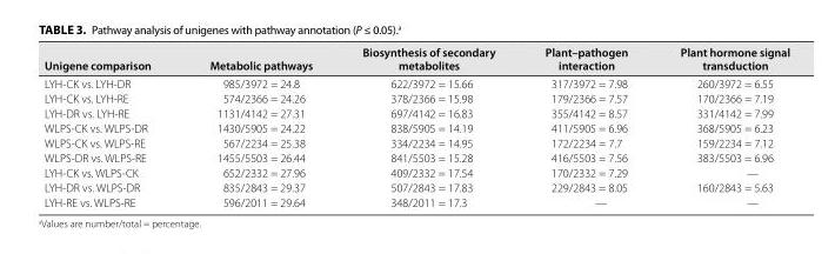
<table><thead><tr><td>Unigene comparison</td><td>Metabolic pathways</td><td>Biosynthesis of secondary metabolites</td><td>Plant–pathogen interaction</td><td>Plant hormone signal transduction</td></tr></thead><tbody><tr><td>LYH- CK vs. LYH- DR</td><td>985/3972 = 24.8</td><td>622/3972 = 15.66</td><td>317/3972 = 7.98</td><td>260/3972 = 6.55</td></tr><tr><td>LYH- CK vs. LYH- RE</td><td>574/2366 = 24.26</td><td>378/2366 = 15.98</td><td>179/2366 = 7.57</td><td>170/2366 = 7.19</td></tr><tr><td>LYH- DR vs. LYH- RE</td><td>1131/4142 = 27.31</td><td>697/4142 = 16.83</td><td>355/4142 = 8.57</td><td>331/4142 = 7.99</td></tr><tr><td>WLPS- CK vs. WLPS- DR</td><td>1430/5905 = 24.22</td><td>838/5905 = 14.19</td><td>411/5905 = 6.96</td><td>368/5905 = 6.23</td></tr><tr><td>WLPS- CK vs. WLPS- RE</td><td>567/2234 = 25.38</td><td>334/2234 = 14.95</td><td>172/2234 = 7.7</td><td>159/2234 = 7.12</td></tr><tr><td>WLPS- DR vs. WLPS- RE</td><td>1455/5503 = 26.44</td><td>841/5503 = 15.28</td><td>416/5503 = 7.56</td><td>383/5503 = 6.96</td></tr><tr><td>LYH- CK vs. WLPS- CK</td><td>652/2332 = 27.96</td><td>409/2332 = 17.54</td><td>170/2332 = 7.29</td><td>—</td></tr><tr><td>LYH- DR vs. WLPS- DR</td><td>835/2843 = 29.37</td><td>507/2843 = 17.83</td><td>229/2843 = 8.05</td><td>160/2843 = 5.63</td></tr><tr><td>LYH- RE vs. WLPS- RE</td><td>596/2011 = 29.64</td><td>348/2011 = 17.3</td><td>—</td><td>—</td></tr></tbody></table>